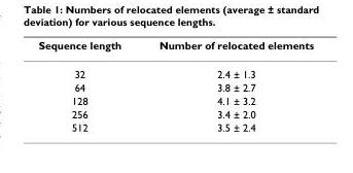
<table><thead><tr><td>Sequence length</td><td>Number of relocated elements</td></tr></thead><tbody><tr><td>32</td><td>2.4 ± 1.3</td></tr><tr><td>64</td><td>3.8 ± 2.7</td></tr><tr><td>128</td><td>4.1 ± 3.2</td></tr><tr><td>256</td><td>3.4 ± 2.0</td></tr><tr><td>512</td><td>3.5 ± 2.4</td></tr></tbody></table>